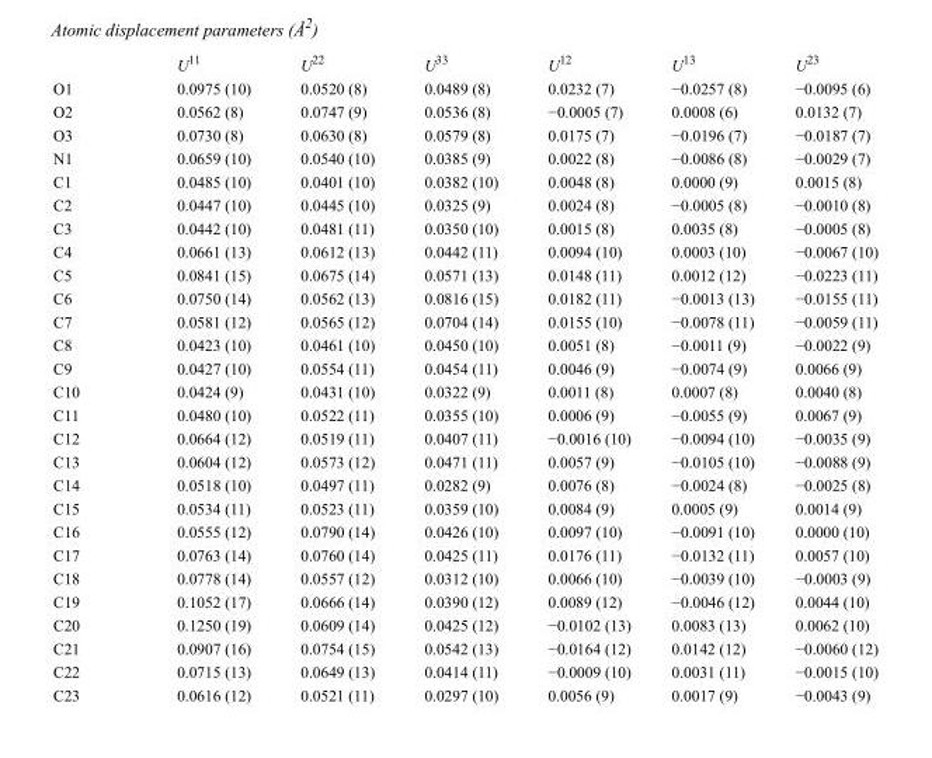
<table><thead><tr><td></td><td>U<sup>11</sup></td><td>U<sup>22</sup></td><td>U<sup>33</sup></td><td>U<sup>12</sup></td><td>U<sup>13</sup></td><td>U<sup>23</sup></td></tr></thead><tbody><tr><td>O1</td><td>0.0975 (10)</td><td>0.0520 (8)</td><td>0.0489 (8)</td><td>0.0232 (7)</td><td>−0.0257 (8)</td><td>−0.0095 (6)</td></tr><tr><td>O2</td><td>0.0562 (8)</td><td>0.0747 (9)</td><td>0.0536 (8)</td><td>−0.0005 (7)</td><td>0.0008 (6)</td><td>0.0132 (7)</td></tr><tr><td>O3</td><td>0.0730 (8)</td><td>0.0630 (8)</td><td>0.0579 (8)</td><td>0.0175 (7)</td><td>−0.0196 (7)</td><td>−0.0187 (7)</td></tr><tr><td>N1</td><td>0.0659 (10)</td><td>0.0540 (10)</td><td>0.0385 (9)</td><td>0.0022 (8)</td><td>−0.0086 (8)</td><td>−0.0029 (7)</td></tr><tr><td>C1</td><td>0.0485 (10)</td><td>0.0401 (10)</td><td>0.0382 (10)</td><td>0.0048 (8)</td><td>0.0000 (9)</td><td>0.0015 (8)</td></tr><tr><td>C2</td><td>0.0447 (10)</td><td>0.0445 (10)</td><td>0.0325 (9)</td><td>0.0024 (8)</td><td>−0.0005 (8)</td><td>−0.0010 (8)</td></tr><tr><td>C3</td><td>0.0442 (10)</td><td>0.0481 (11)</td><td>0.0350 (10)</td><td>0.0015 (8)</td><td>0.0035 (8)</td><td>−0.0005 (8)</td></tr><tr><td>C4</td><td>0.0661 (13)</td><td>0.0612 (13)</td><td>0.0442 (11)</td><td>0.0094 (10)</td><td>0.0003 (10)</td><td>−0.0067 (10)</td></tr><tr><td>C5</td><td>0.0841 (15)</td><td>0.0675 (14)</td><td>0.0571 (13)</td><td>0.0148 (11)</td><td>0.0012 (12)</td><td>−0.0223 (11)</td></tr><tr><td>C6</td><td>0.0750 (14)</td><td>0.0562 (13)</td><td>0.0816 (15)</td><td>0.0182 (11)</td><td>−0.0013 (13)</td><td>−0.0155 (11)</td></tr><tr><td>C7</td><td>0.0581 (12)</td><td>0.0565 (12)</td><td>0.0704 (14)</td><td>0.0155 (10)</td><td>−0.0078 (11)</td><td>−0.0059 (11)</td></tr><tr><td>C8</td><td>0.0423 (10)</td><td>0.0461 (10)</td><td>0.0450 (10)</td><td>0.0051 (8)</td><td>−0.0011 (9)</td><td>−0.0022 (9)</td></tr><tr><td>C9</td><td>0.0427 (10)</td><td>0.0554 (11)</td><td>0.0454 (11)</td><td>0.0046 (9)</td><td>−0.0074 (9)</td><td>0.0066 (9)</td></tr><tr><td>C10</td><td>0.0424 (9)</td><td>0.0431 (10)</td><td>0.0322 (9)</td><td>0.0011 (8)</td><td>0.0007 (8)</td><td>0.0040 (8)</td></tr><tr><td>C11</td><td>0.0480 (10)</td><td>0.0522 (11)</td><td>0.0355 (10)</td><td>0.0006 (9)</td><td>−0.0055 (9)</td><td>0.0067 (9)</td></tr><tr><td>C12</td><td>0.0664 (12)</td><td>0.0519 (11)</td><td>0.0407 (11)</td><td>−0.0016 (10)</td><td>−0.0094 (10)</td><td>−0.0035 (9)</td></tr><tr><td>C13</td><td>0.0604 (12)</td><td>0.0573 (12)</td><td>0.0471 (11)</td><td>0.0057 (9)</td><td>−0.0105 (10)</td><td>−0.0088 (9)</td></tr><tr><td>C14</td><td>0.0518 (10)</td><td>0.0497 (11)</td><td>0.0282 (9)</td><td>0.0076 (8)</td><td>−0.0024 (8)</td><td>−0.0025 (8)</td></tr><tr><td>C15</td><td>0.0534 (11)</td><td>0.0523 (11)</td><td>0.0359 (10)</td><td>0.0084 (9)</td><td>0.0005 (9)</td><td>0.0014 (9)</td></tr><tr><td>C16</td><td>0.0555 (12)</td><td>0.0790 (14)</td><td>0.0426 (10)</td><td>0.0097 (10)</td><td>−0.0091 (10)</td><td>0.0000 (10)</td></tr><tr><td>C17</td><td>0.0763 (14)</td><td>0.0760 (14)</td><td>0.0425 (11)</td><td>0.0176 (11)</td><td>−0.0132 (11)</td><td>0.0057 (10)</td></tr><tr><td>C18</td><td>0.0778 (14)</td><td>0.0557 (12)</td><td>0.0312 (10)</td><td>0.0066 (10)</td><td>−0.0039 (10)</td><td>−0.0003 (9)</td></tr><tr><td>C19</td><td>0.1052 (17)</td><td>0.0666 (14)</td><td>0.0390 (12)</td><td>0.0089 (12)</td><td>−0.0046 (12)</td><td>0.0044 (10)</td></tr><tr><td>C20</td><td>0.1250 (19)</td><td>0.0609 (14)</td><td>0.0425 (12)</td><td>−0.0102 (13)</td><td>0.0083 (13)</td><td>0.0062 (10)</td></tr><tr><td>C21</td><td>0.0907 (16)</td><td>0.0754 (15)</td><td>0.0542 (13)</td><td>−0.0164 (12)</td><td>0.0142 (12)</td><td>−0.0060 (12)</td></tr><tr><td>C22</td><td>0.0715 (13)</td><td>0.0649 (13)</td><td>0.0414 (11)</td><td>−0.0009 (10)</td><td>0.0031 (11)</td><td>−0.0015 (10)</td></tr><tr><td>C23</td><td>0.0616 (12)</td><td>0.0521 (11)</td><td>0.0297 (10)</td><td>0.0056 (9)</td><td>0.0017 (9)</td><td>−0.0043 (9)</td></tr></tbody></table>